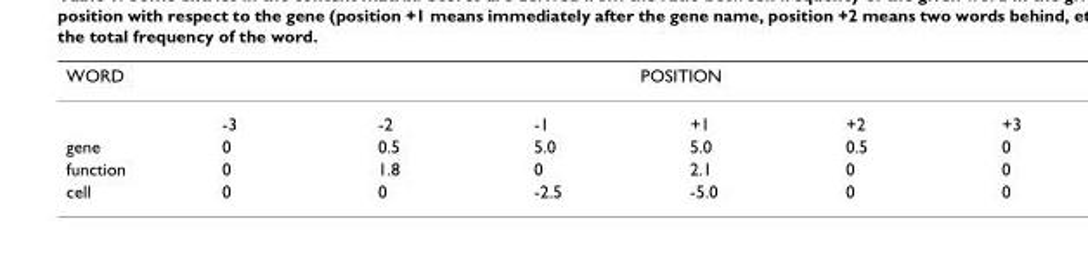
<table><thead><tr><td rowspan="2">WORD</td><td colspan="6">POSITION</td></tr><tr><td>-3</td><td>-2</td><td>-1</td><td>+1</td><td>+2</td><td>+3</td></tr></thead><tbody><tr><td>gene</td><td>0</td><td>0.5</td><td>5.0</td><td>5.0</td><td>0.5</td><td>0</td></tr><tr><td>function</td><td>0</td><td>1.8</td><td>0</td><td>2.1</td><td>0</td><td>0</td></tr><tr><td>cell</td><td>0</td><td>0</td><td>-2.5</td><td>-5.0</td><td>0</td><td>0</td></tr></tbody></table>